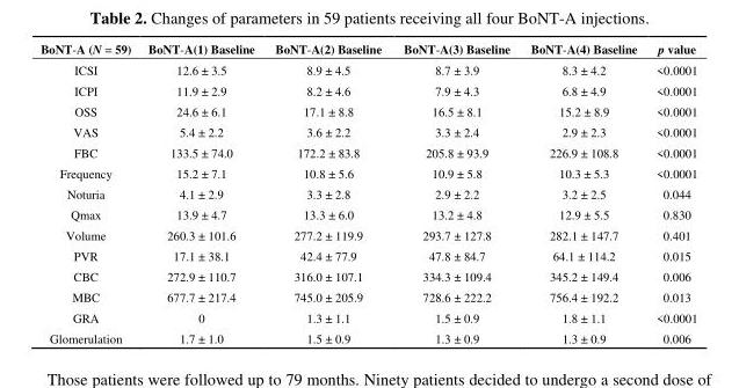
<table><thead><tr><td>BoNT-A (N = 59)</td><td>BoNT-A(1) Baseline</td><td>BoNT-A(2) Baseline</td><td>BoNT-A(3) Baseline</td><td>BoNT-A(4) Baseline</td><td>p value</td></tr></thead><tbody><tr><td>ICSI</td><td>12.6 ± 3.5</td><td>8.9 ± 4.5</td><td>8.7 ± 3.9</td><td>8.3 ± 4.2</td><td>&lt;0.0001</td></tr><tr><td>ICPI</td><td>11.9 ± 2.9</td><td>8.2 ± 4.6</td><td>7.9 ± 4.3</td><td>6.8 ± 4.9</td><td>&lt;0.0001</td></tr><tr><td>OSS</td><td>24.6 ± 6.1</td><td>17.1 ± 8.8</td><td>16.5 ± 8.1</td><td>15.2 ± 8.9</td><td>&lt;0.0001</td></tr><tr><td>VAS</td><td>5.4 ± 2.2</td><td>3.6 ± 2.2</td><td>3.3 ± 2.4</td><td>2.9 ± 2.3</td><td>&lt;0.0001</td></tr><tr><td>FBC</td><td>133.5 ± 74.0</td><td>172.2 ± 83.8</td><td>205.8 ± 93.9</td><td>226.9 ± 108.8</td><td>&lt;0.0001</td></tr><tr><td>Frequency</td><td>15.2 ± 7.1</td><td>10.8 ± 5.6</td><td>10.9 ± 5.8</td><td>10.3 ± 5.3</td><td>&lt;0.0001</td></tr><tr><td>Noturia</td><td>4.1 ± 2.9</td><td>3.3 ± 2.8</td><td>2.9 ± 2.2</td><td>3.2 ± 2.5</td><td>0.044</td></tr><tr><td>Qmax</td><td>13.9 ± 4.7</td><td>13.3 ± 6.0</td><td>13.2 ± 4.8</td><td>12.9 ± 5.5</td><td>0.830</td></tr><tr><td>Volume</td><td>260.3 ± 101.6</td><td>277.2 ± 119.9</td><td>293.7 ± 127.8</td><td>282.1 ± 147.7</td><td>0.401</td></tr><tr><td>PVR</td><td>17.1 ± 38.1</td><td>42.4 ± 77.9</td><td>47.8 ± 84.7</td><td>64.1 ± 114.2</td><td>0.015</td></tr><tr><td>CBC</td><td>272.9 ± 110.7</td><td>316.0 ± 107.1</td><td>334.3 ± 109.4</td><td>345.2 ± 149.4</td><td>0.006</td></tr><tr><td>MBC</td><td>677.7 ± 217.4</td><td>745.0 ± 205.9</td><td>728.6 ± 222.2</td><td>756.4 ± 192.2</td><td>0.013</td></tr><tr><td>GRA</td><td>0</td><td>1.3 ± 1.1</td><td>1.5 ± 0.9</td><td>1.8 ± 1.1</td><td>&lt;0.0001</td></tr><tr><td>Glomerulation</td><td>1.7 ± 1.0</td><td>1.5 ± 0.9</td><td>1.3 ± 0.9</td><td>1.3 ± 0.9</td><td>0.006</td></tr></tbody></table>